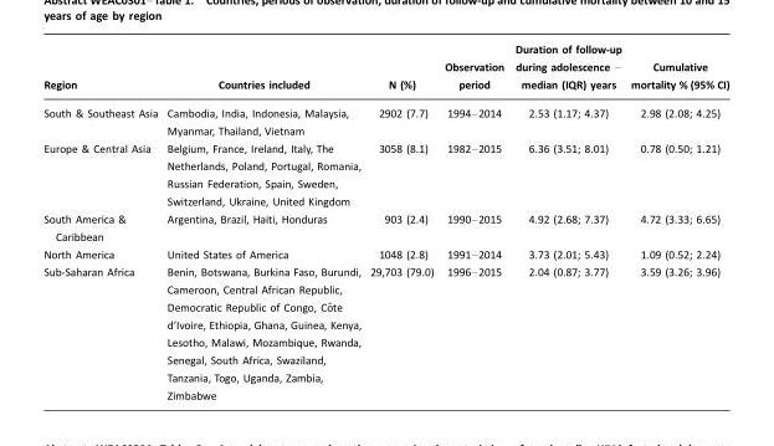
<table><thead><tr><td>Region</td><td>Countries included</td><td>N (%)</td><td>Observation period</td><td>Duration of follow-up during adolescence – median (IQR) years</td><td>Cumulative mortality % (95% CI)</td></tr></thead><tbody><tr><td>South &amp; Southeast Asia</td><td>Cambodia, India, Indonesia, Malaysia, Myanmar, Thailand, Vietnam</td><td>2902 (7.7)</td><td>1994–2014</td><td>2.53 (1.17; 4.37)</td><td>2.98 (2.08; 4.25)</td></tr><tr><td>Europe &amp; Central Asia</td><td>Belgium, France, Ireland, Italy, The Netherlands, Poland, Portugal, Romania, Russian Federation, Spain, Sweden, Switzerland, Ukraine, United Kingdom</td><td>3058 (8.1)</td><td>1982–2015</td><td>6.36 (3.51; 8.01)</td><td>0.78 (0.50; 1.21)</td></tr><tr><td>South America &amp; Caribbean</td><td>Argentina, Brazil, Haiti, Honduras</td><td>903 (2.4)</td><td>1990–2015</td><td>4.92 (2.68; 7.37)</td><td>4.72 (3.33; 6.65)</td></tr><tr><td>North America</td><td>United States of America</td><td>1048 (2.8)</td><td>1991–2014</td><td>3.73 (2.01; 5.43)</td><td>1.09 (0.52; 2.24)</td></tr><tr><td>Sub-Saharan Africa</td><td>Benin, Botswana, Burkina Faso, Burundi, Cameroon, Central African Republic, Democratic Republic of Congo, Coˆte d’Ivoire, Ethiopia, Ghana, Guinea, Kenya, Lesotho, Malawi, Mozambique, Rwanda, Senegal, South Africa, Swaziland, Tanzania, Togo, Uganda, Zambia, Zimbabwe</td><td>29,703 (79.0)</td><td>1996–2015</td><td>2.04 (0.87; 3.77)</td><td>3.59 (3.26; 3.96)</td></tr></tbody></table>